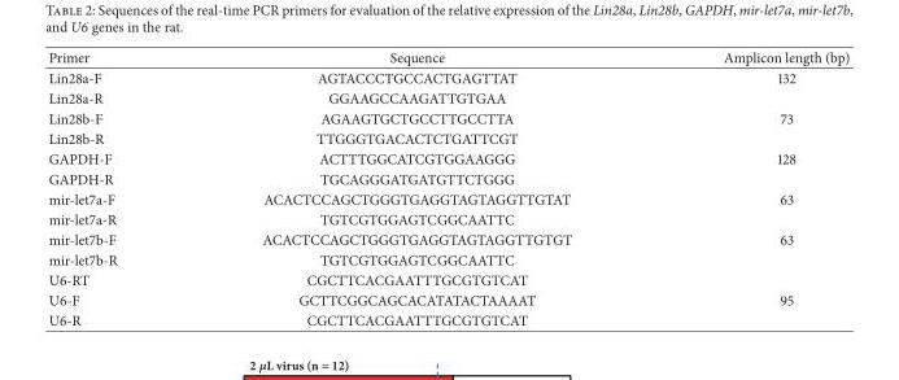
<table><thead><tr><td>Primer</td><td>Sequence</td><td>Amplicon length (bp)</td></tr></thead><tbody><tr><td>Lin28a-F</td><td>AGTACCCTGCCACTGAGTTAT</td><td>132</td></tr><tr><td>Lin28a-R</td><td>GGAAGCCAAGATTGTGAA</td><td></td></tr><tr><td>Lin28b-F</td><td>AGAAGTGCTGCCTTGCCTTA</td><td>73</td></tr><tr><td>Lin28b-R</td><td>TTGGGTGACACTCTGATTCGT</td><td></td></tr><tr><td>GAPDH-F</td><td>ACTTTGGCATCGTGGAAGGG</td><td>128</td></tr><tr><td>GAPDH-R</td><td>TGCAGGGATGATGTTCTGGG</td><td></td></tr><tr><td>mir-let7a-F</td><td>ACACTCCAGCTGGGTGAGGTAGTAGGTTGTAT</td><td>63</td></tr><tr><td>mir-let7a-R</td><td>TGTCGTGGAGTCGGCAATTC</td><td></td></tr><tr><td>mir-let7b-F</td><td>ACACTCCAGCTGGGTGAGGTAGTAGGTTGTGT</td><td>63</td></tr><tr><td>mir-let7b-R</td><td>TGTCGTGGAGTCGGCAATTC</td><td></td></tr><tr><td>U6-RT</td><td>CGCTTCACGAATTTGCGTGTCAT</td><td></td></tr><tr><td>U6-F</td><td>GCTTCGGCAGCACATATACTAAAAT</td><td>95</td></tr><tr><td>U6-R</td><td>CGCTTCACGAATTTGCGTGTCAT</td><td></td></tr></tbody></table>